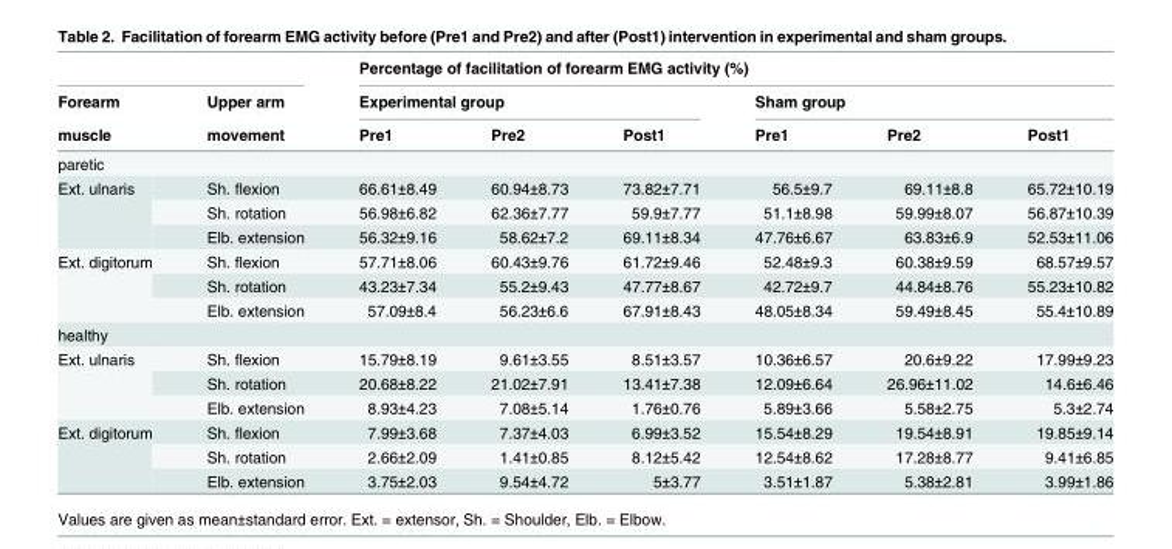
<table><thead><tr><td rowspan="3">Forearm muscle</td><td rowspan="3">Upper arm movement</td><td colspan="6">Percentage of facilitation of forearm EMG activity (%)</td></tr><tr><td colspan="3">Experimental group</td><td colspan="3">Sham group</td></tr><tr><td>Pre1</td><td>Pre2</td><td>Post1</td><td>Pre1</td><td>Pre2</td><td>Post1</td></tr></thead><tbody><tr><td colspan="8">paretic</td></tr><tr><td rowspan="3">Ext. ulnaris</td><td>Sh. flexion</td><td>66.61±8.49</td><td>60.94±8.73</td><td>73.82±7.71</td><td>56.5±9.7</td><td>69.11±8.8</td><td>65.72±10.19</td></tr><tr><td>Sh. rotation</td><td>56.98±6.82</td><td>62.36±7.77</td><td>59.9±7.77</td><td>51.1±8.98</td><td>59.99±8.07</td><td>56.87±10.39</td></tr><tr><td>Elb. extension</td><td>56.32±9.16</td><td>58.62±7.2</td><td>69.11±8.34</td><td>47.76±6.67</td><td>63.83±6.9</td><td>52.53±11.06</td></tr><tr><td rowspan="3">Ext. digitorum</td><td>Sh. flexion</td><td>57.71±8.06</td><td>60.43±9.76</td><td>61.72±9.46</td><td>52.48±9.3</td><td>60.38±9.59</td><td>68.57±9.57</td></tr><tr><td>Sh. rotation</td><td>43.23±7.34</td><td>55.2±9.43</td><td>47.77±8.67</td><td>42.72±9.7</td><td>44.84±8.76</td><td>55.23±10.82</td></tr><tr><td>Elb. extension</td><td>57.09±8.4</td><td>56.23±6.6</td><td>67.91±8.43</td><td>48.05±8.34</td><td>59.49±8.45</td><td>55.4±10.89</td></tr><tr><td colspan="8">healthy</td></tr><tr><td rowspan="3">Ext. ulnaris</td><td>Sh. flexion</td><td>15.79±8.19</td><td>9.61±3.55</td><td>8.51±3.57</td><td>10.36±6.57</td><td>20.6±9.22</td><td>17.99±9.23</td></tr><tr><td>Sh. rotation</td><td>20.68±8.22</td><td>21.02±7.91</td><td>13.41±7.38</td><td>12.09±6.64</td><td>26.96±11.02</td><td>14.6±6.46</td></tr><tr><td>Elb. extension</td><td>8.93±4.23</td><td>7.08±5.14</td><td>1.76±0.76</td><td>5.89±3.66</td><td>5.58±2.75</td><td>5.3±2.74</td></tr><tr><td rowspan="3">Ext. digitorum</td><td>Sh. flexion</td><td>7.99±3.68</td><td>7.37±4.03</td><td>6.99±3.52</td><td>15.54±8.29</td><td>19.54±8.91</td><td>19.85±9.14</td></tr><tr><td>Sh. rotation</td><td>2.66±2.09</td><td>1.41±0.85</td><td>8.12±5.42</td><td>12.54±8.62</td><td>17.28±8.77</td><td>9.41±6.85</td></tr><tr><td>Elb. extension</td><td>3.75±2.03</td><td>9.54±4.72</td><td>5±3.77</td><td>3.51±1.87</td><td>5.38±2.81</td><td>3.99±1.86</td></tr></tbody></table>